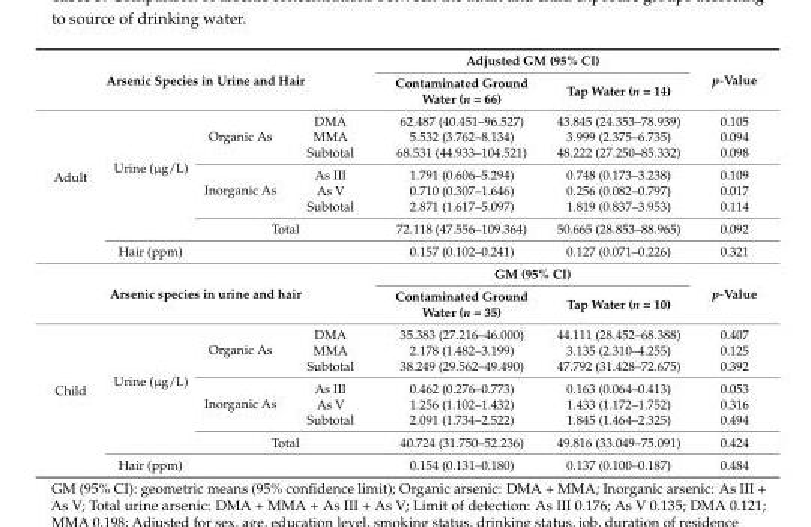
<table><tbody><tr><td rowspan="2" colspan="4">Arsenic Species in Urine and Hair</td><td colspan="2">Adjusted GM (95% CI)</td><td rowspan="2">p-Value</td></tr><tr><td>Contaminated Ground Water (n = 66)</td><td>Tap Water (n = 14)</td></tr><tr><td rowspan="8">Adult</td><td rowspan="7">Urine (µg/L)</td><td rowspan="3">Organic As</td><td>DMA</td><td>62.487 (40.451–96.527)</td><td>43.845 (24.353–78.939)</td><td>0.105</td></tr><tr><td>MMA</td><td>5.532 (3.762–8.134)</td><td>3.999 (2.375–6.735)</td><td>0.094</td></tr><tr><td>Subtotal</td><td>68.531 (44.933–104.521)</td><td>48.222 (27.250–85.332)</td><td>0.098</td></tr><tr><td rowspan="3">Inorganic As</td><td>As III</td><td>1.791 (0.606–5.294)</td><td>0.748 (0.173–3.238)</td><td>0.109</td></tr><tr><td>As V</td><td>0.710 (0.307–1.646)</td><td>0.256 (0.082–0.797)</td><td>0.017</td></tr><tr><td>Subtotal</td><td>2.871 (1.617–5.097)</td><td>1.819 (0.837–3.953)</td><td>0.114</td></tr><tr><td colspan="2">Total</td><td>72.118 (47.556–109.364)</td><td>50.665 (28.853–88.965)</td><td>0.092</td></tr><tr><td>Hair (ppm)</td><td colspan="2"></td><td>0.157 (0.102–0.241)</td><td>0.127 (0.071–0.226)</td><td>0.321</td></tr><tr><td rowspan="2" colspan="4">Arsenic species in urine and hair</td><td colspan="2">GM (95% CI)</td><td rowspan="2">p-Value</td></tr><tr><td>Contaminated Ground Water (n = 35)</td><td>Tap Water (n = 10)</td></tr><tr><td rowspan="8">Child</td><td rowspan="7">Urine (µg/L)</td><td rowspan="3">Organic As</td><td>DMA</td><td>35.383 (27.216–46.000)</td><td>44.111 (28.452–68.388)</td><td>0.407</td></tr><tr><td>MMA</td><td>2.178 (1.482–3.199)</td><td>3.135 (2.310–4.255)</td><td>0.125</td></tr><tr><td>Subtotal</td><td>38.249 (29.562–49.490)</td><td>47.792 (31.428–72.675)</td><td>0.392</td></tr><tr><td rowspan="3">Inorganic As</td><td>As III</td><td>0.462 (0.276–0.773)</td><td>0.163 (0.064–0.413)</td><td>0.053</td></tr><tr><td>As V</td><td>1.256 (1.102–1.432)</td><td>1.433 (1.172–1.752)</td><td>0.316</td></tr><tr><td>Subtotal</td><td>2.091 (1.734–2.522)</td><td>1.845 (1.464–2.325)</td><td>0.494</td></tr><tr><td colspan="2">Total</td><td>40.724 (31.750–52.236)</td><td>49.816 (33.049–75.091)</td><td>0.424</td></tr><tr><td>Hair (ppm)</td><td colspan="2"></td><td>0.154 (0.131–0.180)</td><td>0.137 (0.100–0.187)</td><td>0.484</td></tr></tbody></table>